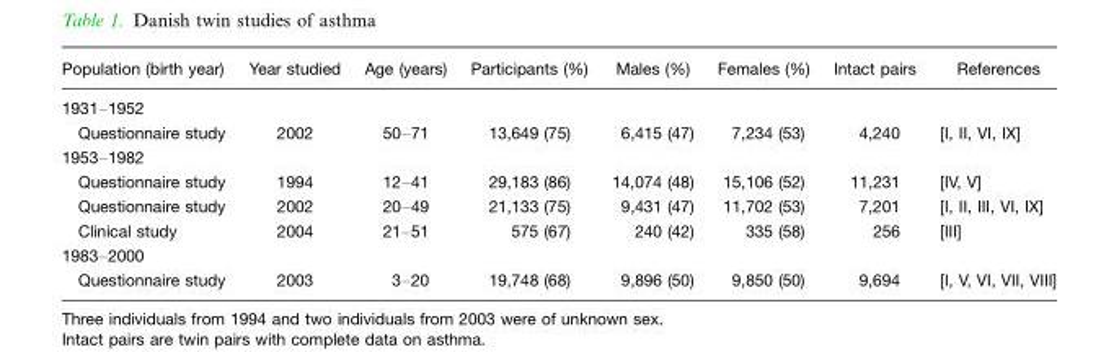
<table><thead><tr><td>Population (birth year)</td><td>Year studied</td><td>Age (years)</td><td>Participants (%)</td><td>Males (%)</td><td>Females (%)</td><td>Intact pairs</td><td>References</td></tr></thead><tbody><tr><td colspan="8">1931–1952</td></tr><tr><td>Questionnaire study</td><td>2002</td><td>50–71</td><td>13,649 (75)</td><td>6,415 (47)</td><td>7,234 (53)</td><td>4,240</td><td>[I, II, VI, IX]</td></tr><tr><td colspan="8">1953–1982</td></tr><tr><td>Questionnaire study</td><td>1994</td><td>12–41</td><td>29,183 (86)</td><td>14,074 (48)</td><td>15,106 (52)</td><td>11,231</td><td>[IV, V]</td></tr><tr><td>Questionnaire study</td><td>2002</td><td>20–49</td><td>21,133 (75)</td><td>9,431 (47)</td><td>11,702 (53)</td><td>7,201</td><td>[I, II, III, VI, IX]</td></tr><tr><td>Clinical study</td><td>2004</td><td>21–51</td><td>575 (67)</td><td>240 (42)</td><td>335 (58)</td><td>256</td><td>[III]</td></tr><tr><td colspan="8">1983–2000</td></tr><tr><td>Questionnaire study</td><td>2003</td><td>3–20</td><td>19,748 (68)</td><td>9,896 (50)</td><td>9,850 (50)</td><td>9,694</td><td>[I, V, VI, VII, VIII]</td></tr></tbody></table>